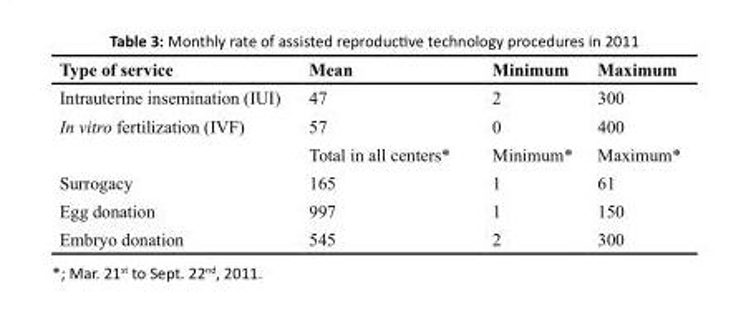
<table><thead><tr><td>Type of service</td><td>Mean</td><td>Minimum</td><td>Maximum</td></tr></thead><tbody><tr><td>Intrauterine insemination (IUI)</td><td>47</td><td>2</td><td>300</td></tr><tr><td rowspan="2">In vitro fertilization (IVF)</td><td>57</td><td>0</td><td>400</td></tr><tr><td>Total in all centers*</td><td>Minimum*</td><td>Maximum*</td></tr><tr><td>Surrogacy</td><td>165</td><td>1</td><td>61</td></tr><tr><td>Egg donation</td><td>997</td><td>1</td><td>150</td></tr><tr><td>Embryo donation</td><td>545</td><td>2</td><td>300</td></tr></tbody></table>